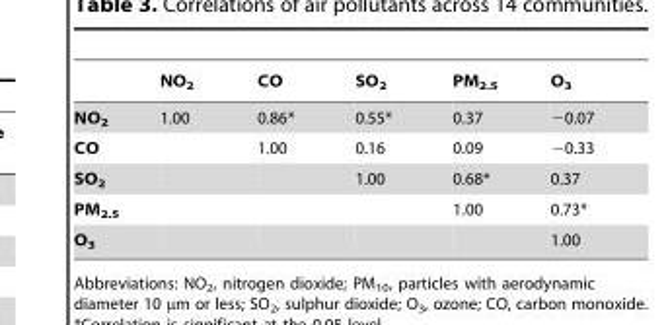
<table><thead><tr><td></td><td>NO<sub>2</sub></td><td>CO</td><td>SO<sub>2</sub></td><td>PM<sub>2.5</sub></td><td>O<sub>3</sub></td></tr></thead><tbody><tr><td>NO<sub>2</sub></td><td>1.00</td><td>0.86*</td><td>0.55*</td><td>0.37</td><td>−0.07</td></tr><tr><td>CO</td><td></td><td>1.00</td><td>0.16</td><td>0.09</td><td>−0.33</td></tr><tr><td>SO<sub>2</sub></td><td></td><td></td><td>1.00</td><td>0.68*</td><td>0.37</td></tr><tr><td>PM<sub>2.5</sub></td><td></td><td></td><td></td><td>1.00</td><td>0.73*</td></tr><tr><td>O<sub>3</sub></td><td></td><td></td><td></td><td></td><td>1.00</td></tr></tbody></table>